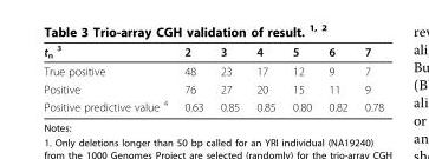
<table><thead><tr><td>t<sub>n</sub> <sup>3</sup></td><td>2</td><td>3</td><td>4</td><td>5</td><td>6</td><td>7</td></tr></thead><tbody><tr><td>True positive</td><td>48</td><td>23</td><td>17</td><td>12</td><td>9</td><td>7</td></tr><tr><td>Positive</td><td>76</td><td>27</td><td>20</td><td>15</td><td>11</td><td>9</td></tr><tr><td>Positive predictive value <sup>4</sup></td><td>0.63</td><td>0.85</td><td>0.85</td><td>0.80</td><td>0.82</td><td>0.78</td></tr></tbody></table>